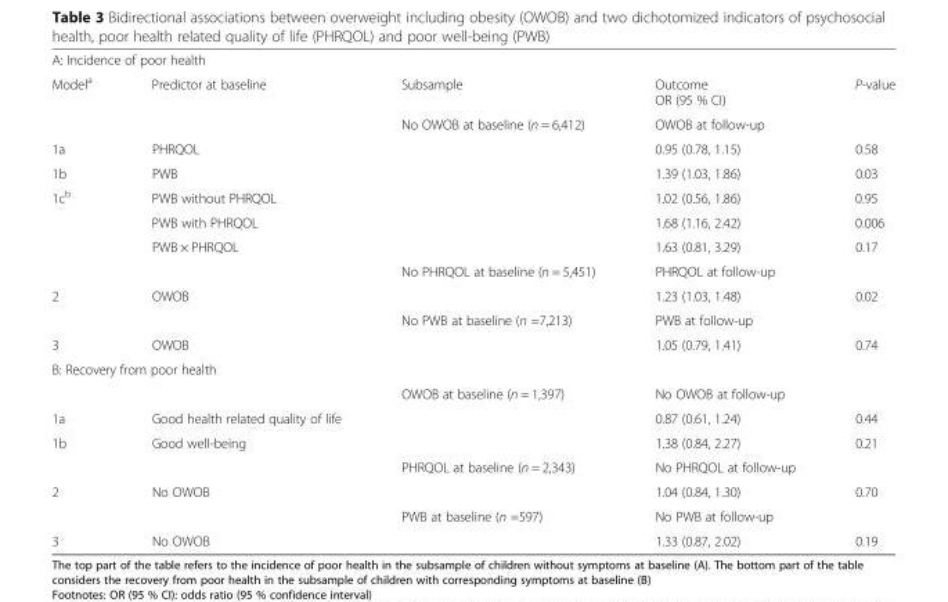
<table><tbody><tr><td colspan="5">A: Incidence of poor health</td></tr><tr><td rowspan="2">Model<sup>a</sup></td><td>Predictor at baseline</td><td>Subsample</td><td>Outcome OR (95 % CI)</td><td>P-value</td></tr><tr><td></td><td>No OWOB at baseline (n = 6,412)</td><td>OWOB at follow-up</td><td></td></tr><tr><td>1a</td><td>PHRQOL</td><td></td><td>0.95 (0.78, 1.15)</td><td>0.58</td></tr><tr><td>1b</td><td>PWB</td><td></td><td>1.39 (1.03, 1.86)</td><td>0.03</td></tr><tr><td rowspan="4">1c<sup>b</sup></td><td>PWB without PHRQOL</td><td></td><td>1.02 (0.56, 1.86)</td><td>0.95</td></tr><tr><td>PWB with PHRQOL</td><td></td><td>1.68 (1.16, 2.42)</td><td>0.006</td></tr><tr><td>PWB × PHRQOL</td><td></td><td>1.63 (0.81, 3.29)</td><td>0.17</td></tr><tr><td></td><td>No PHRQOL at baseline (n = 5,451)</td><td>PHRQOL at follow-up</td><td></td></tr><tr><td rowspan="2">2</td><td>OWOB</td><td></td><td>1.23 (1.03, 1.48)</td><td>0.02</td></tr><tr><td></td><td>No PWB at baseline (n =7,213)</td><td>PWB at follow-up</td><td></td></tr><tr><td>3</td><td>OWOB</td><td></td><td>1.05 (0.79, 1.41)</td><td>0.74</td></tr><tr><td colspan="5">B: Recovery from poor health</td></tr><tr><td></td><td></td><td>OWOB at baseline (n = 1,397)</td><td>No OWOB at follow-up</td><td></td></tr><tr><td>1a</td><td>Good health related quality of life</td><td></td><td>0.87 (0.61, 1.24)</td><td>0.44</td></tr><tr><td rowspan="2">1b</td><td>Good well-being</td><td></td><td>1.38 (0.84, 2.27)</td><td>0.21</td></tr><tr><td></td><td>PHRQOL at baseline (n = 2,343)</td><td>No PHRQOL at follow-up</td><td></td></tr><tr><td rowspan="2">2</td><td>No OWOB</td><td></td><td>1.04 (0.84, 1.30)</td><td>0.70</td></tr><tr><td></td><td>PWB at baseline (n =597)</td><td>No PWB at follow-up</td><td></td></tr><tr><td>3</td><td>No OWOB</td><td></td><td>1.33 (0.87, 2.02)</td><td>0.19</td></tr></tbody></table>